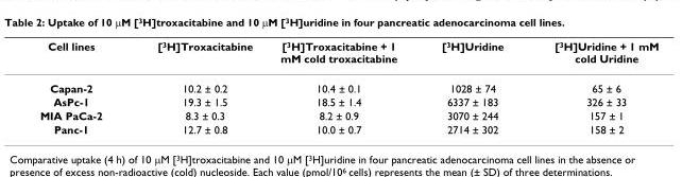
<table><thead><tr><td>Cell lines</td><td>[<sup>3</sup>H]Troxacitabine</td><td>[<sup>3</sup>H]Troxacitabine + 1 mM cold troxacitabine</td><td>[<sup>3</sup>H]Uridine</td><td>[<sup>3</sup>H]Uridine + 1 mM cold Uridine</td></tr></thead><tbody><tr><td>Capan-2</td><td>10.2 ± 0.2</td><td>10.4 ± 0.1</td><td>1028 ± 74</td><td>65 ± 6</td></tr><tr><td>AsPc-1</td><td>19.3 ± 1.5</td><td>18.5 ± 1.4</td><td>6337 ± 183</td><td>326 ± 33</td></tr><tr><td>MIA PaCa-2</td><td>8.3 ± 0.3</td><td>8.2 ± 0.9</td><td>3070 ± 244</td><td>157 ± 1</td></tr><tr><td>Panc-1</td><td>12.7 ± 0.8</td><td>10.0 ± 0.7</td><td>2714 ± 302</td><td>158 ± 2</td></tr></tbody></table>